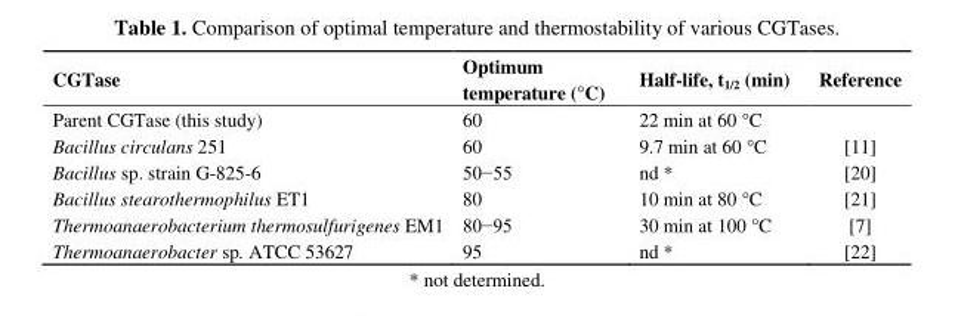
<table><thead><tr><td>CGTase</td><td>Optimum temperature (°C)</td><td>Half-life, t<sub>1/2</sub> (min)</td><td>Reference</td></tr></thead><tbody><tr><td>Parent CGTase (this study)</td><td>60</td><td>22 min at 60 °C</td><td></td></tr><tr><td>Bacillus circulans 251</td><td>60</td><td>9.7 min at 60 °C</td><td>[11]</td></tr><tr><td>Bacillus sp. strain G-825-6</td><td>50−55</td><td>nd *</td><td>[20]</td></tr><tr><td>Bacillus stearothermophilus ET1</td><td>80</td><td>10 min at 80 °C</td><td>[21]</td></tr><tr><td>Thermoanaerobacterium thermosulfurigenes EM1</td><td>80−95</td><td>30 min at 100 °C</td><td>[7]</td></tr><tr><td>Thermoanaerobacter sp. ATCC 53627</td><td>95</td><td>nd *</td><td>[22]</td></tr></tbody></table>